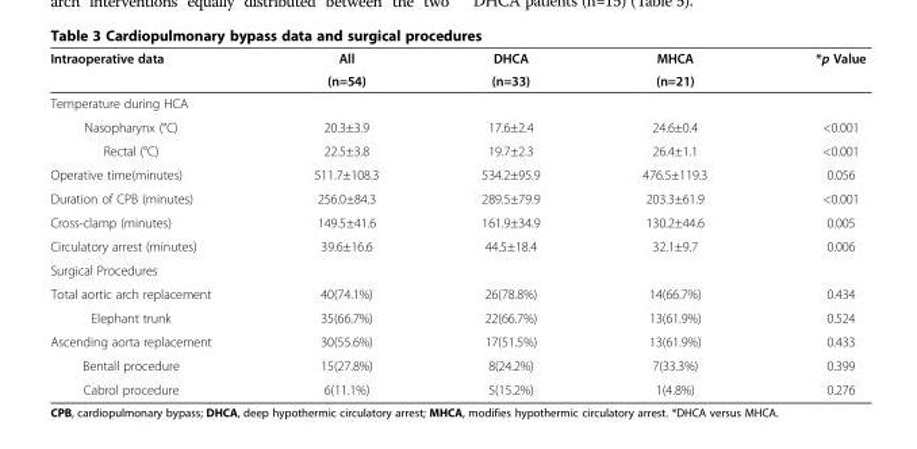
<table><thead><tr><td rowspan="2">Intraoperative data</td><td rowspan="2">All (n=54)</td><td rowspan="2">DHCA (n=33)</td><td rowspan="2">MHCA (n=21)</td><td rowspan="2">*p Value</td></tr><tr></tr></thead><tbody><tr><td colspan="5">Temperature during HCA</td></tr><tr><td>Nasopharynx (°C)</td><td>20.3±3.9</td><td>17.6±2.4</td><td>24.6±0.4</td><td>&lt;0.001</td></tr><tr><td>Rectal (°C)</td><td>22.5±3.8</td><td>19.7±2.3</td><td>26.4±1.1</td><td>&lt;0.001</td></tr><tr><td>Operative time(minutes)</td><td>511.7±108.3</td><td>534.2±95.9</td><td>476.5±119.3</td><td>0.056</td></tr><tr><td>Duration of CPB (minutes)</td><td>256.0±84.3</td><td>289.5±79.9</td><td>203.3±61.9</td><td>&lt;0.001</td></tr><tr><td>Cross-clamp (minutes)</td><td>149.5±41.6</td><td>161.9±34.9</td><td>130.2±44.6</td><td>0.005</td></tr><tr><td>Circulatory arrest (minutes)</td><td>39.6±16.6</td><td>44.5±18.4</td><td>32.1±9.7</td><td>0.006</td></tr><tr><td colspan="5">Surgical Procedures</td></tr><tr><td>Total aortic arch replacement</td><td>40(74.1%)</td><td>26(78.8%)</td><td>14(66.7%)</td><td>0.434</td></tr><tr><td>Elephant trunk</td><td>35(66.7%)</td><td>22(66.7%)</td><td>13(61.9%)</td><td>0.524</td></tr><tr><td>Ascending aorta replacement</td><td>30(55.6%)</td><td>17(51.5%)</td><td>13(61.9%)</td><td>0.433</td></tr><tr><td>Bentall procedure</td><td>15(27.8%)</td><td>8(24.2%)</td><td>7(33.3%)</td><td>0.399</td></tr><tr><td>Cabrol procedure</td><td>6(11.1%)</td><td>5(15.2%)</td><td>1(4.8%)</td><td>0.276</td></tr></tbody></table>